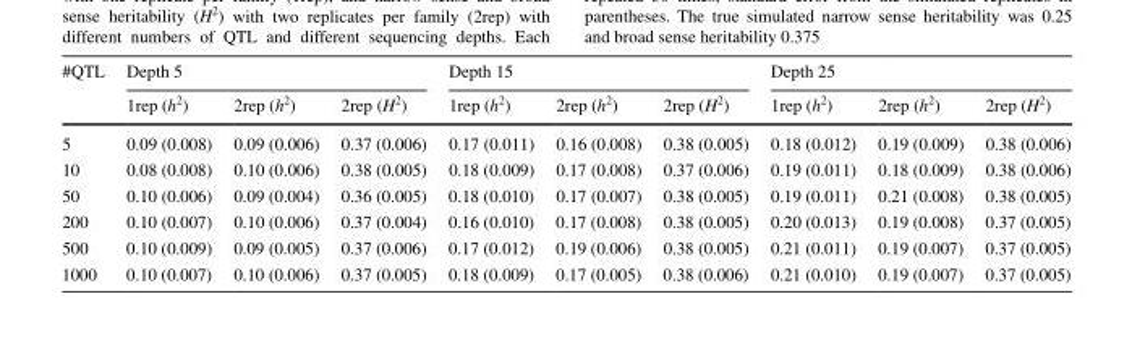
<table><thead><tr><td rowspan="2">#QTL</td><td colspan="3">Depth 5</td><td colspan="3">Depth 15</td><td colspan="3">Depth 25</td></tr><tr><td>1rep (h<sup>2</sup>)</td><td>2rep (h<sup>2</sup>)</td><td>2rep (H<sup>2</sup>)</td><td>1rep (h<sup>2</sup>)</td><td>2rep (h<sup>2</sup>)</td><td>2rep (H<sup>2</sup>)</td><td>1rep (h<sup>2</sup>)</td><td>2rep (h<sup>2</sup>)</td><td>2rep (H<sup>2</sup>)</td></tr></thead><tbody><tr><td>5</td><td>0.09 (0.008)</td><td>0.09 (0.006)</td><td>0.37 (0.006)</td><td>0.17 (0.011)</td><td>0.16 (0.008)</td><td>0.38 (0.005)</td><td>0.18 (0.012)</td><td>0.19 (0.009)</td><td>0.38 (0.006)</td></tr><tr><td>10</td><td>0.08 (0.008)</td><td>0.10 (0.006)</td><td>0.38 (0.005)</td><td>0.18 (0.009)</td><td>0.17 (0.008)</td><td>0.37 (0.006)</td><td>0.19 (0.011)</td><td>0.18 (0.009)</td><td>0.38 (0.006)</td></tr><tr><td>50</td><td>0.10 (0.006)</td><td>0.09 (0.004)</td><td>0.36 (0.005)</td><td>0.18 (0.010)</td><td>0.17 (0.007)</td><td>0.38 (0.005)</td><td>0.19 (0.011)</td><td>0.21 (0.008)</td><td>0.38 (0.005)</td></tr><tr><td>200</td><td>0.10 (0.007)</td><td>0.10 (0.006)</td><td>0.37 (0.004)</td><td>0.16 (0.010)</td><td>0.17 (0.008)</td><td>0.38 (0.005)</td><td>0.20 (0.013)</td><td>0.19 (0.008)</td><td>0.37 (0.005)</td></tr><tr><td>500</td><td>0.10 (0.009)</td><td>0.09 (0.005)</td><td>0.37 (0.006)</td><td>0.17 (0.012)</td><td>0.19 (0.006)</td><td>0.38 (0.005)</td><td>0.21 (0.011)</td><td>0.19 (0.007)</td><td>0.37 (0.005)</td></tr><tr><td>1000</td><td>0.10 (0.007)</td><td>0.10 (0.006)</td><td>0.37 (0.005)</td><td>0.18 (0.009)</td><td>0.17 (0.005)</td><td>0.38 (0.006)</td><td>0.21 (0.010)</td><td>0.19 (0.007)</td><td>0.37 (0.005)</td></tr></tbody></table>